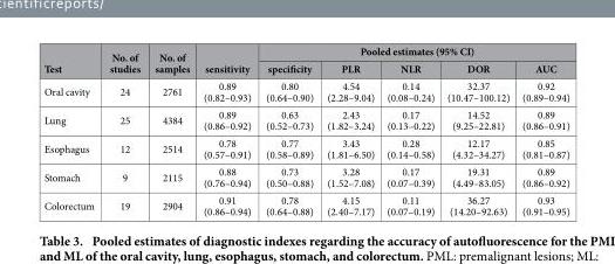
<table><thead><tr><td rowspan="2">Test</td><td rowspan="2">No. of studies</td><td rowspan="2">No. of samples</td><td rowspan="2">sensitivity</td><td colspan="5">Pooled estimates (95% CI)</td></tr><tr><td>specificity</td><td>PLR</td><td>NLR</td><td>DOR</td><td>AUC</td></tr></thead><tbody><tr><td>Oral cavity</td><td>24</td><td>2761</td><td>0.89 (0.82–0.93)</td><td>0.80 (0.64–0.90)</td><td>4.54 (2.28–9.04)</td><td>0.14 (0.08–0.24)</td><td>32.37 (10.47–100.12)</td><td>0.92 (0.89–0.94)</td></tr><tr><td>Lung</td><td>25</td><td>4384</td><td>0.89 (0.86–0.92)</td><td>0.63 (0.52–0.73)</td><td>2.43 (1.82–3.24)</td><td>0.17 (0.13–0.22)</td><td>14.52 (9.25–22.81)</td><td>0.89 (0.86–0.91)</td></tr><tr><td>Esophagus</td><td>12</td><td>2514</td><td>0.78 (0.57–0.91)</td><td>0.77 (0.58–0.89)</td><td>3.43 (1.81–6.50)</td><td>0.28 (0.14–0.58)</td><td>12.17 (4.32–34.27)</td><td>0.85 (0.81–0.87)</td></tr><tr><td>Stomach</td><td>9</td><td>2115</td><td>0.88 (0.76–0.94)</td><td>0.73 (0.50–0.88)</td><td>3.28 (1.52–7.08)</td><td>0.17 (0.07–0.39)</td><td>19.31 (4.49–83.05)</td><td>0.89 (0.86–0.92)</td></tr><tr><td>Colorectum</td><td>19</td><td>2904</td><td>0.91 (0.86–0.94)</td><td>0.78 (0.64–0.88)</td><td>4.15 (2.40–7.17)</td><td>0.11 (0.07–0.19)</td><td>36.27 (14.20–92.63)</td><td>0.93 (0.91–0.95)</td></tr></tbody></table>